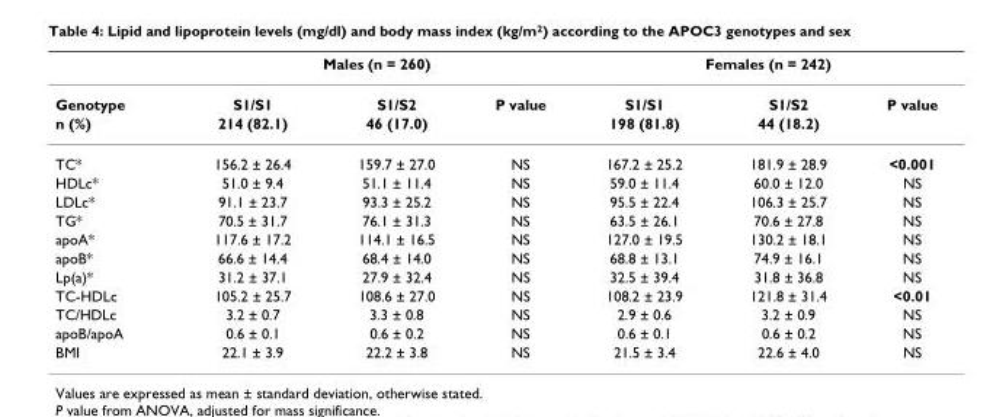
<table><thead><tr><td rowspan="2">Genotype</td><td colspan="3">Males (n = 260)</td><td colspan="3">Females (n = 242)</td></tr><tr><td>S1/S1</td><td>S1/S2</td><td>P value</td><td>S1/S1</td><td>S1/S2</td><td>P value</td></tr></thead><tbody><tr><td>n (%)</td><td>214 (82.1)</td><td>46 (17.0)</td><td></td><td>198 (81.8)</td><td>44 (18.2)</td><td></td></tr><tr><td>TC*</td><td>156.2 ± 26.4</td><td>159.7 ± 27.0</td><td>NS</td><td>167.2 ± 25.2</td><td>181.9 ± 28.9</td><td>&lt;0.001</td></tr><tr><td>HDLc*</td><td>51.0 ± 9.4</td><td>51.1 ± 11.4</td><td>NS</td><td>59.0 ± 11.4</td><td>60.0 ± 12.0</td><td>NS</td></tr><tr><td>LDLc*</td><td>91.1 ± 23.7</td><td>93.3 ± 25.2</td><td>NS</td><td>95.5 ± 22.4</td><td>106.3 ± 25.7</td><td>NS</td></tr><tr><td>TG*</td><td>70.5 ± 31.7</td><td>76.1 ± 31.3</td><td>NS</td><td>63.5 ± 26.1</td><td>70.6 ± 27.8</td><td>NS</td></tr><tr><td>apoA*</td><td>117.6 ± 17.2</td><td>114.1 ± 16.5</td><td>NS</td><td>127.0 ± 19.5</td><td>130.2 ± 18.1</td><td>NS</td></tr><tr><td>apoB*</td><td>66.6 ± 14.4</td><td>68.4 ± 14.0</td><td>NS</td><td>68.8 ± 13.1</td><td>74.9 ± 16.1</td><td>NS</td></tr><tr><td>Lp(a)*</td><td>31.2 ± 37.1</td><td>27.9 ± 32.4</td><td>NS</td><td>32.5 ± 39.4</td><td>31.8 ± 36.8</td><td>NS</td></tr><tr><td>TC-HDLc</td><td>105.2 ± 25.7</td><td>108.6 ± 27.0</td><td>NS</td><td>108.2 ± 23.9</td><td>121.8 ± 31.4</td><td>&lt;0.01</td></tr><tr><td>TC/HDLc</td><td>3.2 ± 0.7</td><td>3.3 ± 0.8</td><td>NS</td><td>2.9 ± 0.6</td><td>3.2 ± 0.9</td><td>NS</td></tr><tr><td>apoB/apoA</td><td>0.6 ± 0.1</td><td>0.6 ± 0.2</td><td>NS</td><td>0.6 ± 0.1</td><td>0.6 ± 0.2</td><td>NS</td></tr><tr><td>BMI</td><td>22.1 ± 3.9</td><td>22.2 ± 3.8</td><td>NS</td><td>21.5 ± 3.4</td><td>22.6 ± 4.0</td><td>NS</td></tr></tbody></table>